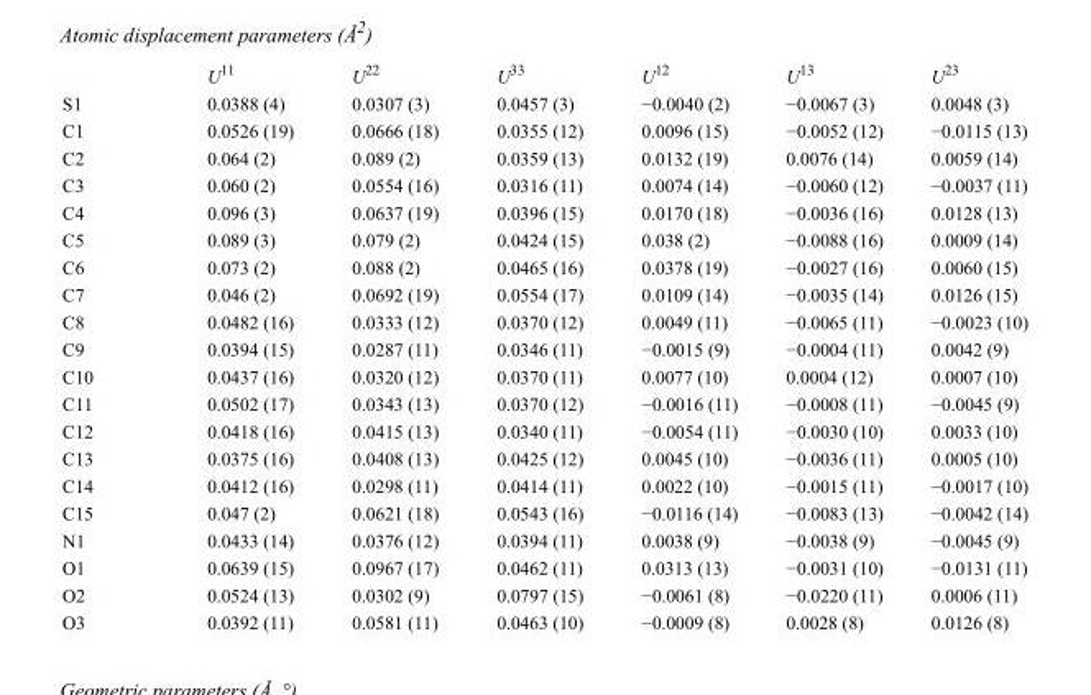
<table><thead><tr><td></td><td>U<sup>11</sup></td><td>U<sup>22</sup></td><td>U<sup>33</sup></td><td>U<sup>12</sup></td><td>U<sup>13</sup></td><td>U<sup>23</sup></td></tr></thead><tbody><tr><td>S1</td><td>0.0388 (4)</td><td>0.0307 (3)</td><td>0.0457 (3)</td><td>−0.0040 (2)</td><td>−0.0067 (3)</td><td>0.0048 (3)</td></tr><tr><td>C1</td><td>0.0526 (19)</td><td>0.0666 (18)</td><td>0.0355 (12)</td><td>0.0096 (15)</td><td>−0.0052 (12)</td><td>−0.0115 (13)</td></tr><tr><td>C2</td><td>0.064 (2)</td><td>0.089 (2)</td><td>0.0359 (13)</td><td>0.0132 (19)</td><td>0.0076 (14)</td><td>0.0059 (14)</td></tr><tr><td>C3</td><td>0.060 (2)</td><td>0.0554 (16)</td><td>0.0316 (11)</td><td>0.0074 (14)</td><td>−0.0060 (12)</td><td>−0.0037 (11)</td></tr><tr><td>C4</td><td>0.096 (3)</td><td>0.0637 (19)</td><td>0.0396 (15)</td><td>0.0170 (18)</td><td>−0.0036 (16)</td><td>0.0128 (13)</td></tr><tr><td>C5</td><td>0.089 (3)</td><td>0.079 (2)</td><td>0.0424 (15)</td><td>0.038 (2)</td><td>−0.0088 (16)</td><td>0.0009 (14)</td></tr><tr><td>C6</td><td>0.073 (2)</td><td>0.088 (2)</td><td>0.0465 (16)</td><td>0.0378 (19)</td><td>−0.0027 (16)</td><td>0.0060 (15)</td></tr><tr><td>C7</td><td>0.046 (2)</td><td>0.0692 (19)</td><td>0.0554 (17)</td><td>0.0109 (14)</td><td>−0.0035 (14)</td><td>0.0126 (15)</td></tr><tr><td>C8</td><td>0.0482 (16)</td><td>0.0333 (12)</td><td>0.0370 (12)</td><td>0.0049 (11)</td><td>−0.0065 (11)</td><td>−0.0023 (10)</td></tr><tr><td>C9</td><td>0.0394 (15)</td><td>0.0287 (11)</td><td>0.0346 (11)</td><td>−0.0015 (9)</td><td>−0.0004 (11)</td><td>0.0042 (9)</td></tr><tr><td>C10</td><td>0.0437 (16)</td><td>0.0320 (12)</td><td>0.0370 (11)</td><td>0.0077 (10)</td><td>0.0004 (12)</td><td>0.0007 (10)</td></tr><tr><td>C11</td><td>0.0502 (17)</td><td>0.0343 (13)</td><td>0.0370 (12)</td><td>−0.0016 (11)</td><td>−0.0008 (11)</td><td>−0.0045 (9)</td></tr><tr><td>C12</td><td>0.0418 (16)</td><td>0.0415 (13)</td><td>0.0340 (11)</td><td>−0.0054 (11)</td><td>−0.0030 (10)</td><td>0.0033 (10)</td></tr><tr><td>C13</td><td>0.0375 (16)</td><td>0.0408 (13)</td><td>0.0425 (12)</td><td>0.0045 (10)</td><td>−0.0036 (11)</td><td>0.0005 (10)</td></tr><tr><td>C14</td><td>0.0412 (16)</td><td>0.0298 (11)</td><td>0.0414 (11)</td><td>0.0022 (10)</td><td>−0.0015 (11)</td><td>−0.0017 (10)</td></tr><tr><td>C15</td><td>0.047 (2)</td><td>0.0621 (18)</td><td>0.0543 (16)</td><td>−0.0116 (14)</td><td>−0.0083 (13)</td><td>−0.0042 (14)</td></tr><tr><td>N1</td><td>0.0433 (14)</td><td>0.0376 (12)</td><td>0.0394 (11)</td><td>0.0038 (9)</td><td>−0.0038 (9)</td><td>−0.0045 (9)</td></tr><tr><td>O1</td><td>0.0639 (15)</td><td>0.0967 (17)</td><td>0.0462 (11)</td><td>0.0313 (13)</td><td>−0.0031 (10)</td><td>−0.0131 (11)</td></tr><tr><td>O2</td><td>0.0524 (13)</td><td>0.0302 (9)</td><td>0.0797 (15)</td><td>−0.0061 (8)</td><td>−0.0220 (11)</td><td>0.0006 (11)</td></tr><tr><td>O3</td><td>0.0392 (11)</td><td>0.0581 (11)</td><td>0.0463 (10)</td><td>−0.0009 (8)</td><td>0.0028 (8)</td><td>0.0126 (8)</td></tr></tbody></table>